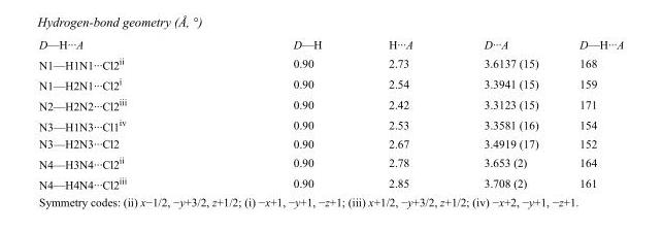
<table><tbody><tr><td>D—H···A</td><td>D—H</td><td>H···A</td><td>D···A</td><td>D—H···A</td></tr><tr><td>N1—H1N1···Cl2<sup>ii</sup></td><td>0.90</td><td>2.73</td><td>3.6137 (15)</td><td>168</td></tr><tr><td>N1—H2N1···Cl2<sup>i</sup></td><td>0.90</td><td>2.54</td><td>3.3941 (15)</td><td>159</td></tr><tr><td>N2—H2N2···Cl2<sup>iii</sup></td><td>0.90</td><td>2.42</td><td>3.3123 (15)</td><td>171</td></tr><tr><td>N3—H1N3···Cl1<sup>iv</sup></td><td>0.90</td><td>2.53</td><td>3.3581 (16)</td><td>154</td></tr><tr><td>N3—H2N3···Cl2</td><td>0.90</td><td>2.67</td><td>3.4919 (17)</td><td>152</td></tr><tr><td>N4—H3N4···Cl2<sup>ii</sup></td><td>0.90</td><td>2.78</td><td>3.653 (2)</td><td>164</td></tr><tr><td>N4—H4N4···Cl2<sup>iii</sup></td><td>0.90</td><td>2.85</td><td>3.708 (2)</td><td>161</td></tr></tbody></table>